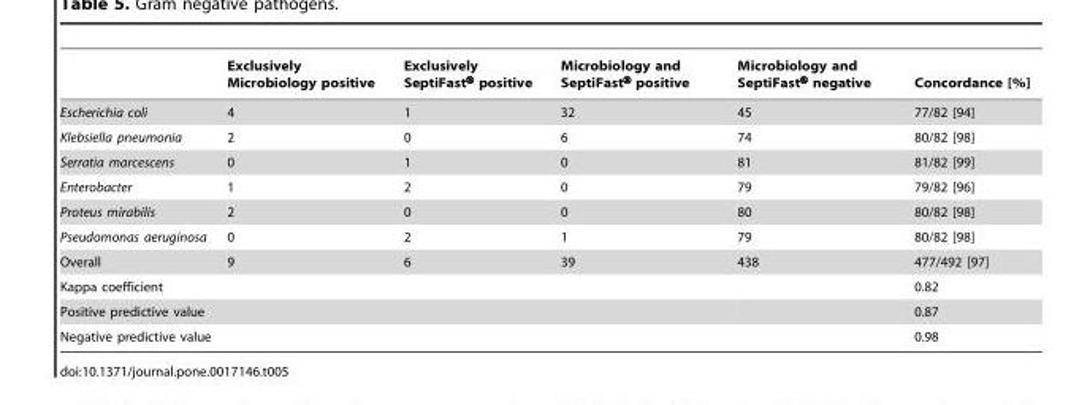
<table><thead><tr><td></td><td>Exclusively Microbiology positive</td><td>Exclusively SeptiFast<sup>®</sup> positive</td><td>Microbiology and SeptiFast<sup>®</sup> positive</td><td>Microbiology and SeptiFast<sup>®</sup> negative</td><td>Concordance [%]</td></tr></thead><tbody><tr><td>Escherichia coli</td><td>4</td><td>1</td><td>32</td><td>45</td><td>77/82 [94]</td></tr><tr><td>Klebsiella pneumonia</td><td>2</td><td>0</td><td>6</td><td>74</td><td>80/82 [98]</td></tr><tr><td>Serratia marcescens</td><td>0</td><td>1</td><td>0</td><td>81</td><td>81/82 [99]</td></tr><tr><td>Enterobacter</td><td>1</td><td>2</td><td>0</td><td>79</td><td>79/82 [96]</td></tr><tr><td>Proteus mirabilis</td><td>2</td><td>0</td><td>0</td><td>80</td><td>80/82 [98]</td></tr><tr><td>Pseudomonas aeruginosa</td><td>0</td><td>2</td><td>1</td><td>79</td><td>80/82 [98]</td></tr><tr><td>Overall</td><td>9</td><td>6</td><td>39</td><td>438</td><td>477/492 [97]</td></tr><tr><td colspan="2">Kappa coefficient</td><td></td><td></td><td></td><td>0.82</td></tr><tr><td colspan="2">Positive predictive value</td><td></td><td></td><td></td><td>0.87</td></tr><tr><td colspan="2">Negative predictive value</td><td></td><td></td><td></td><td>0.98</td></tr></tbody></table>